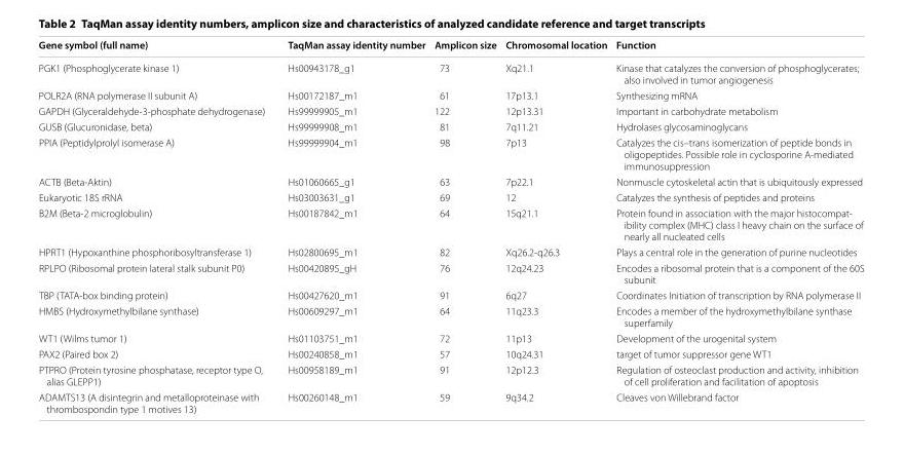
<table><thead><tr><td>Gene symbol (full name)</td><td>TaqMan assay identity number</td><td>Amplicon size</td><td>Chromosomal location</td><td>Function</td></tr></thead><tbody><tr><td>PGK1 (Phosphoglycerate kinase 1)</td><td>Hs00943178_g1</td><td>73</td><td>Xq21.1</td><td>Kinase that catalyzes the conversion of phosphoglycerates; also involved in tumor angiogenesis</td></tr><tr><td>POLR2A (RNA polymerase II subunit A)</td><td>Hs00172187_m1</td><td>61</td><td>17p13.1</td><td>Synthesizing mRNA</td></tr><tr><td>GAPDH (Glyceraldehyde-3-phosphate dehydrogenase)</td><td>Hs99999905_m1</td><td>122</td><td>12p13.31</td><td>Important in carbohydrate metabolism</td></tr><tr><td>GUSB (Glucuronidase, beta)</td><td>Hs99999908_m1</td><td>81</td><td>7q11.21</td><td>Hydrolases glycosaminoglycans</td></tr><tr><td>PPIA (Peptidylprolyl isomerase A)</td><td>Hs99999904_m1</td><td>98</td><td>7p13</td><td>Catalyzes the cis–trans isomerization of peptide bonds in oligopeptides. Possible role in cyclosporine A-mediated immunosuppression</td></tr><tr><td>ACTB (Beta-Aktin)</td><td>Hs01060665_g1</td><td>63</td><td>7p22.1</td><td>Nonmuscle cytoskeletal actin that is ubiquitously expressed</td></tr><tr><td>Eukaryotic 18S rRNA</td><td>Hs03003631_g1</td><td>69</td><td>12</td><td>Catalyzes the synthesis of peptides and proteins</td></tr><tr><td>B2M (Beta-2 microglobulin)</td><td>Hs00187842_m1</td><td>64</td><td>15q21.1</td><td>Protein found in association with the major histocompat- ibility complex (MHC) class I heavy chain on the surface of nearly all nucleated cells</td></tr><tr><td>HPRT1 (Hypoxanthine phosphoribosyltransferase 1)</td><td>Hs02800695_m1</td><td>82</td><td>Xq26.2-q26.3</td><td>Plays a central role in the generation of purine nucleotides</td></tr><tr><td>RPLPO (Ribosomal protein lateral stalk subunit P0)</td><td>Hs00420895_gH</td><td>76</td><td>12q24.23</td><td>Encodes a ribosomal protein that is a component of the 60S subunit</td></tr><tr><td>TBP (TATA-box binding protein)</td><td>Hs00427620_m1</td><td>91</td><td>6q27</td><td>Coordinates Initiation of transcription by RNA polymerase II</td></tr><tr><td>HMBS (Hydroxymethylbilane synthase)</td><td>Hs00609297_m1</td><td>64</td><td>11q23.3</td><td>Encodes a member of the hydroxymethylbilane synthase superfamily</td></tr><tr><td>WT1 (Wilms tumor 1)</td><td>Hs01103751_m1</td><td>72</td><td>11p13</td><td>Development of the urogenital system</td></tr><tr><td>PAX2 (Paired box 2)</td><td>Hs00240858_m1</td><td>57</td><td>10q24.31</td><td>target of tumor suppressor gene WT1</td></tr><tr><td>PTPRO (Protein tyrosine phosphatase, receptor type O, alias GLEPP1)</td><td>Hs00958189_m1</td><td>91</td><td>12p12.3</td><td>Regulation of osteoclast production and activity, inhibition of cell proliferation and facilitation of apoptosis</td></tr><tr><td>ADAMTS13 (A disintegrin and metalloproteinase with thrombospondin type 1 motives 13)</td><td>Hs00260148_m1</td><td>59</td><td>9q34.2</td><td>Cleaves von Willebrand factor</td></tr></tbody></table>